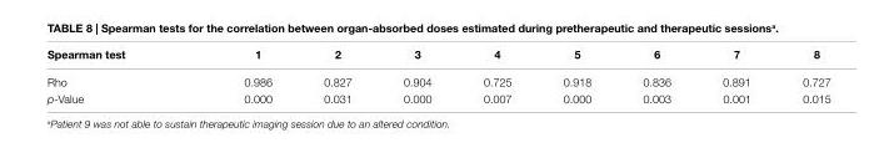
<table><thead><tr><td>Spearman test</td><td>1</td><td>2</td><td>3</td><td>4</td><td>5</td><td>6</td><td>7</td><td>8</td></tr></thead><tbody><tr><td>Rho</td><td>0.986</td><td>0.827</td><td>0.904</td><td>0.725</td><td>0.918</td><td>0.836</td><td>0.891</td><td>0.727</td></tr><tr><td>p-Value</td><td>0.000</td><td>0.031</td><td>0.000</td><td>0.007</td><td>0.000</td><td>0.003</td><td>0.001</td><td>0.015</td></tr></tbody></table>